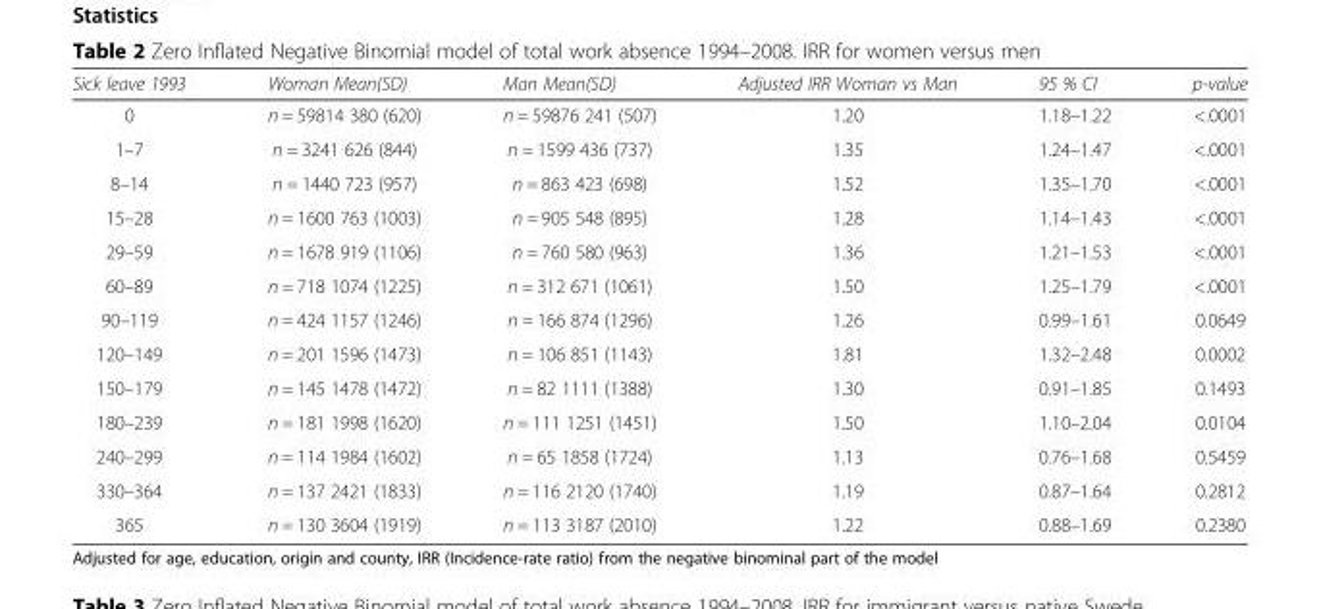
<table><thead><tr><td>Sick leave 1993</td><td>Woman Mean(SD)</td><td>Man Mean(SD)</td><td>Adjusted IRR Woman vs Man</td><td>95 % CI</td><td>p-value</td></tr></thead><tbody><tr><td>0</td><td>n = 59814 380 (620)</td><td>n = 59876 241 (507)</td><td>1.20</td><td>1.18–1.22</td><td>&lt;.0001</td></tr><tr><td>1–7</td><td>n = 3241 626 (844)</td><td>n = 1599 436 (737)</td><td>1.35</td><td>1.24–1.47</td><td>&lt;.0001</td></tr><tr><td>8–14</td><td>n = 1440 723 (957)</td><td>n = 863 423 (698)</td><td>1.52</td><td>1.35–1.70</td><td>&lt;.0001</td></tr><tr><td>15–28</td><td>n = 1600 763 (1003)</td><td>n = 905 548 (895)</td><td>1.28</td><td>1.14–1.43</td><td>&lt;.0001</td></tr><tr><td>29–59</td><td>n = 1678 919 (1106)</td><td>n = 760 580 (963)</td><td>1.36</td><td>1.21–1.53</td><td>&lt;.0001</td></tr><tr><td>60–89</td><td>n = 718 1074 (1225)</td><td>n = 312 671 (1061)</td><td>1.50</td><td>1.25–1.79</td><td>&lt;.0001</td></tr><tr><td>90–119</td><td>n = 424 1157 (1246)</td><td>n = 166 874 (1296)</td><td>1.26</td><td>0.99–1.61</td><td>0.0649</td></tr><tr><td>120–149</td><td>n = 201 1596 (1473)</td><td>n = 106 851 (1143)</td><td>1.81</td><td>1.32–2.48</td><td>0.0002</td></tr><tr><td>150–179</td><td>n = 145 1478 (1472)</td><td>n = 82 1111 (1388)</td><td>1.30</td><td>0.91–1.85</td><td>0.1493</td></tr><tr><td>180–239</td><td>n = 181 1998 (1620)</td><td>n = 111 1251 (1451)</td><td>1.50</td><td>1.10–2.04</td><td>0.0104</td></tr><tr><td>240–299</td><td>n = 114 1984 (1602)</td><td>n = 65 1858 (1724)</td><td>1.13</td><td>0.76–1.68</td><td>0.5459</td></tr><tr><td>330–364</td><td>n = 137 2421 (1833)</td><td>n = 116 2120 (1740)</td><td>1.19</td><td>0.87–1.64</td><td>0.2812</td></tr><tr><td>365</td><td>n = 130 3604 (1919)</td><td>n = 113 3187 (2010)</td><td>1.22</td><td>0.88–1.69</td><td>0.2380</td></tr></tbody></table>